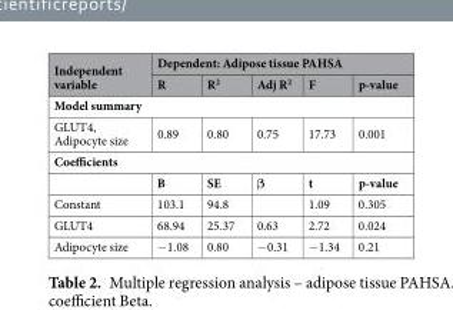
<table><thead><tr><td rowspan="2">Independent variable</td><td colspan="5">Dependent: Adipose tissue PAHSA</td></tr><tr><td>R</td><td>R<sup>2</sup></td><td>Adj R<sup>2</sup></td><td>F</td><td>p-value</td></tr></thead><tbody><tr><td colspan="6">Model summary</td></tr><tr><td>GLUT4, Adipocyte size</td><td>0.89</td><td>0.80</td><td>0.75</td><td>17.73</td><td>0.001</td></tr><tr><td colspan="6">Coefficients</td></tr><tr><td></td><td>B</td><td>SE</td><td>β</td><td>t</td><td>p-value</td></tr><tr><td>Constant</td><td>103.1</td><td>94.8</td><td></td><td>1.09</td><td>0.305</td></tr><tr><td>GLUT4</td><td>68.94</td><td>25.37</td><td>0.63</td><td>2.72</td><td>0.024</td></tr><tr><td>Adipocyte size</td><td>−1.08</td><td>0.80</td><td>−0.31</td><td>−1.34</td><td>0.21</td></tr></tbody></table>